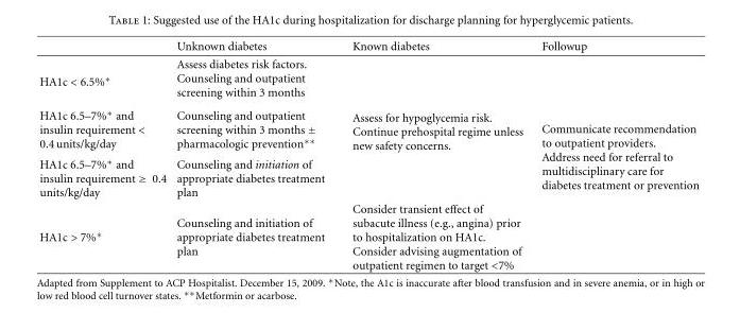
<table><thead><tr><td></td><td>Unknown diabetes</td><td>Known diabetes</td><td>Followup</td></tr></thead><tbody><tr><td>HA1c &lt; 6.5%∗</td><td>Assess diabetes risk factors. Counseling and outpatient screening within 3 months</td><td></td><td></td></tr><tr><td>HA1c 6.5–7%∗ and insulin requirement &lt; 0.4 units/kg/day</td><td>Counseling and outpatient screening within 3 months ± pharmacologic prevention∗∗</td><td>Assess for hypoglycemia risk. Continue prehospital regime unless new safety concerns.</td><td rowspan="2">Communicate recommendation to outpatient providers. Address need for referral to multidisciplinary care for diabetes treatment or prevention</td></tr><tr><td>HA1c 6.5–7%∗ and insulin requirement ≥ 0.4 units/kg/day</td><td>Counseling and initiation of appropriate diabetes treatment plan</td><td></td></tr><tr><td>HA1c &gt; 7%∗</td><td>Counseling and initiation of appropriate diabetes treatment plan</td><td>Consider transient effect of subacute illness (e.g., angina) prior to hospitalization on HA1c. Consider advising augmentation of outpatient regimen to target &lt;7%</td><td></td></tr></tbody></table>